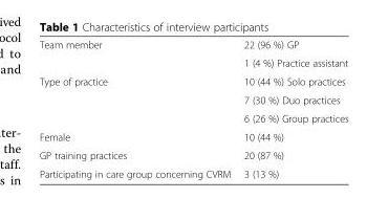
<table><tbody><tr><td rowspan="2">Team member</td><td>22 (96 %) GP</td></tr><tr><td>1 (4 %) Practice assistant</td></tr><tr><td rowspan="3">Type of practice</td><td>10 (44 %) Solo practices</td></tr><tr><td>7 (30 %) Duo practices</td></tr><tr><td>6 (26 %) Group practices</td></tr><tr><td>Female</td><td>10 (44 %)</td></tr><tr><td>GP training practices</td><td>20 (87 %)</td></tr><tr><td>Participating in care group concerning CVRM</td><td>3 (13 %)</td></tr></tbody></table>